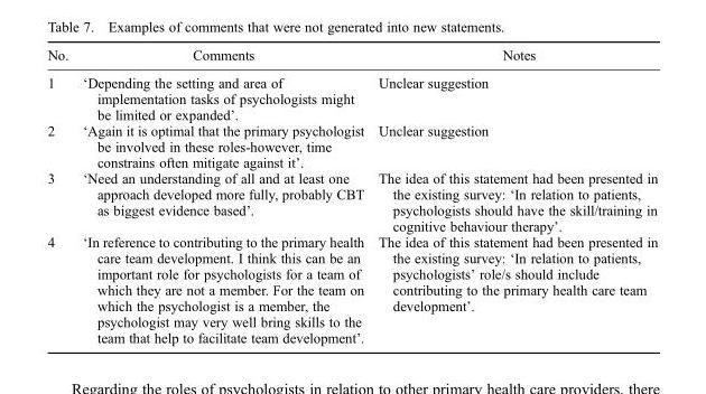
<table><thead><tr><td>No.</td><td>Comments</td><td>Notes</td></tr></thead><tbody><tr><td>1</td><td>‘Depending the setting and area of implementation tasks of psychologists might be limited or expanded’.</td><td>Unclear suggestion</td></tr><tr><td>2</td><td>‘Again it is optimal that the primary psychologist be involved in these roles-however, time constrains often mitigate against it’.</td><td>Unclear suggestion</td></tr><tr><td>3</td><td>‘Need an understanding of all and at least one approach developed more fully, probably CBT as biggest evidence based’.</td><td>The idea of this statement had been presented in the existing survey: ‘In relation to patients, psychologists should have the skill/training in cognitive behaviour therapy’.</td></tr><tr><td>4</td><td>‘In reference to contributing to the primary health care team development. I think this can be an important role for psychologists for a team of which they are not a member. For the team on which the psychologist is a member, the psychologist may very well bring skills to the team that help to facilitate team development’.</td><td>The idea of this statement had been presented in the existing survey: ‘In relation to patients, psychologists’ role/s should include contributing to the primary health care team development’.</td></tr></tbody></table>